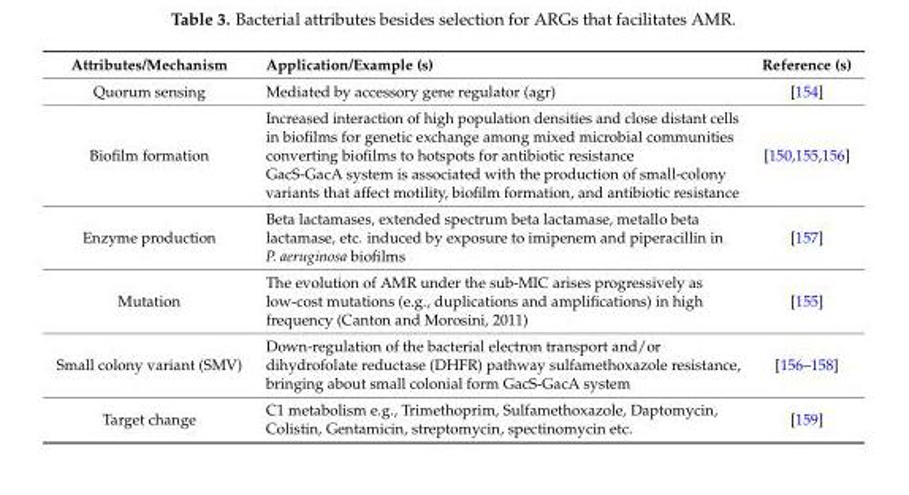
<table><thead><tr><td>Attributes/Mechanism</td><td>Application/Example (s)</td><td>Reference (s)</td></tr></thead><tbody><tr><td>Quorum sensing</td><td>Mediated by accessory gene regulator (agr)</td><td>[154]</td></tr><tr><td>Biofilm formation</td><td>Increased interaction of high population densities and close distant cells in biofilms for genetic exchange among mixed microbial communities converting biofilms to hotspots for antibiotic resistance GacS-GacA system is associated with the production of small-colony variants that affect motility, biofilm formation, and antibiotic resistance</td><td>[150,155,156]</td></tr><tr><td>Enzyme production</td><td>Beta lactamases, extended spectrum beta lactamase, metallo beta lactamase, etc. induced by exposure to imipenem and piperacillin in P. aeruginosa biofilms</td><td>[157]</td></tr><tr><td>Mutation</td><td>The evolution of AMR under the sub-MIC arises progressively as low-cost mutations (e.g., duplications and amplifications) in high frequency (Canton and Morosini, 2011)</td><td>[155]</td></tr><tr><td>Small colony variant (SMV)</td><td>Down-regulation of the bacterial electron transport and/or dihydrofolate reductase (DHFR) pathway sulfamethoxazole resistance, bringing about small colonial form GacS-GacA system</td><td>[156–158]</td></tr><tr><td>Target change</td><td>C1 metabolism e.g., Trimethoprim, Sulfamethoxazole, Daptomycin, Colistin, Gentamicin, streptomycin, spectinomycin etc.</td><td>[159]</td></tr></tbody></table>